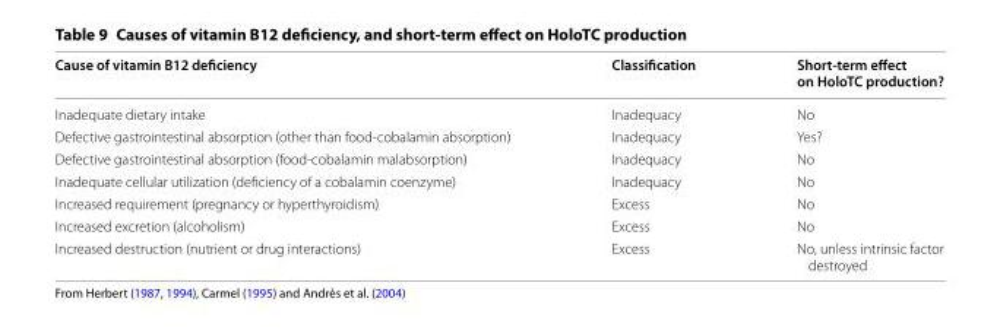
<table><thead><tr><td>Cause of vitamin B12 deficiency</td><td>Classification</td><td>Short-term effect on HoloTC production?</td></tr></thead><tbody><tr><td>Inadequate dietary intake</td><td>Inadequacy</td><td>No</td></tr><tr><td>Defective gastrointestinal absorption (other than food-cobalamin absorption)</td><td>Inadequacy</td><td>Yes?</td></tr><tr><td>Defective gastrointestinal absorption (food-cobalamin malabsorption)</td><td>Inadequacy</td><td>No</td></tr><tr><td>Inadequate cellular utilization (deficiency of a cobalamin coenzyme)</td><td>Inadequacy</td><td>No</td></tr><tr><td>Increased requirement (pregnancy or hyperthyroidism)</td><td>Excess</td><td>No</td></tr><tr><td>Increased excretion (alcoholism)</td><td>Excess</td><td>No</td></tr><tr><td>Increased destruction (nutrient or drug interactions)</td><td>Excess</td><td>No, unless intrinsic factor destroyed</td></tr></tbody></table>